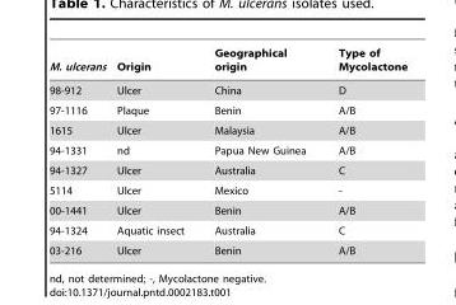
<table><thead><tr><td>M. ulcerans</td><td>Origin</td><td>Geographical origin</td><td>Type of Mycolactone</td></tr></thead><tbody><tr><td>98-912</td><td>Ulcer</td><td>China</td><td>D</td></tr><tr><td>97-1116</td><td>Plaque</td><td>Benin</td><td>A/B</td></tr><tr><td>1615</td><td>Ulcer</td><td>Malaysia</td><td>A/B</td></tr><tr><td>94-1331</td><td>nd</td><td>Papua New Guinea</td><td>A/B</td></tr><tr><td>94-1327</td><td>Ulcer</td><td>Australia</td><td>C</td></tr><tr><td>5114</td><td>Ulcer</td><td>Mexico</td><td>-</td></tr><tr><td>00-1441</td><td>Ulcer</td><td>Benin</td><td>A/B</td></tr><tr><td>94-1324</td><td>Aquatic insect</td><td>Australia</td><td>C</td></tr><tr><td>03-216</td><td>Ulcer</td><td>Benin</td><td>A/B</td></tr></tbody></table>